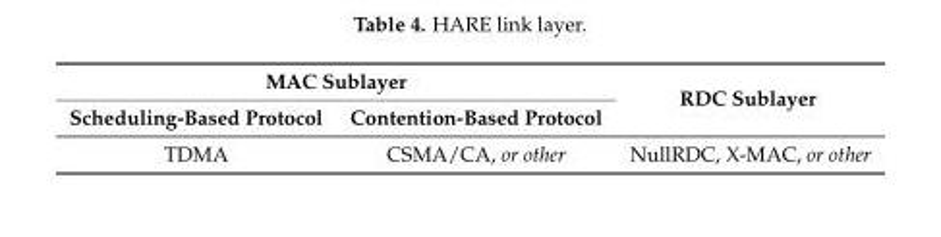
<table><thead><tr><td colspan="2">MAC Sublayer</td><td rowspan="2">RDC Sublayer</td></tr><tr><td>Scheduling-Based Protocol</td><td>Contention-Based Protocol</td></tr></thead><tbody><tr><td>TDMA</td><td>CSMA/CA, or other</td><td>NullRDC, X-MAC, or other</td></tr></tbody></table>